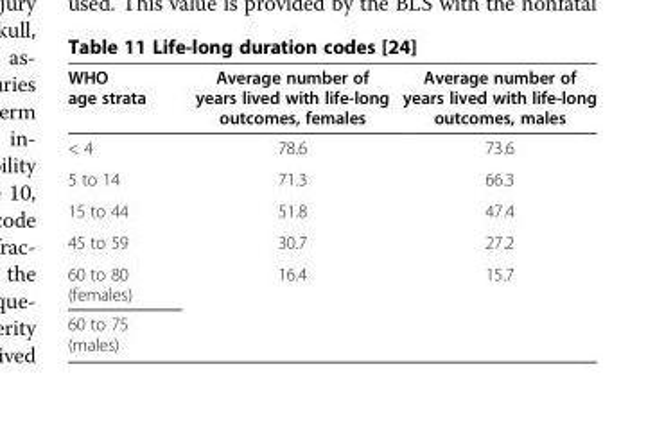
<table><thead><tr><td>WHO age strata</td><td>Average number of years lived with life-long outcomes, females</td><td>Average number of years lived with life-long outcomes, males</td></tr></thead><tbody><tr><td>&lt; 4</td><td>78.6</td><td>73.6</td></tr><tr><td>5 to 14</td><td>71.3</td><td>66.3</td></tr><tr><td>15 to 44</td><td>51.8</td><td>47.4</td></tr><tr><td>45 to 59</td><td>30.7</td><td>27.2</td></tr><tr><td>60 to 80 (females)</td><td>16.4</td><td>15.7</td></tr><tr><td>60 to 75 (males)</td><td></td><td></td></tr></tbody></table>